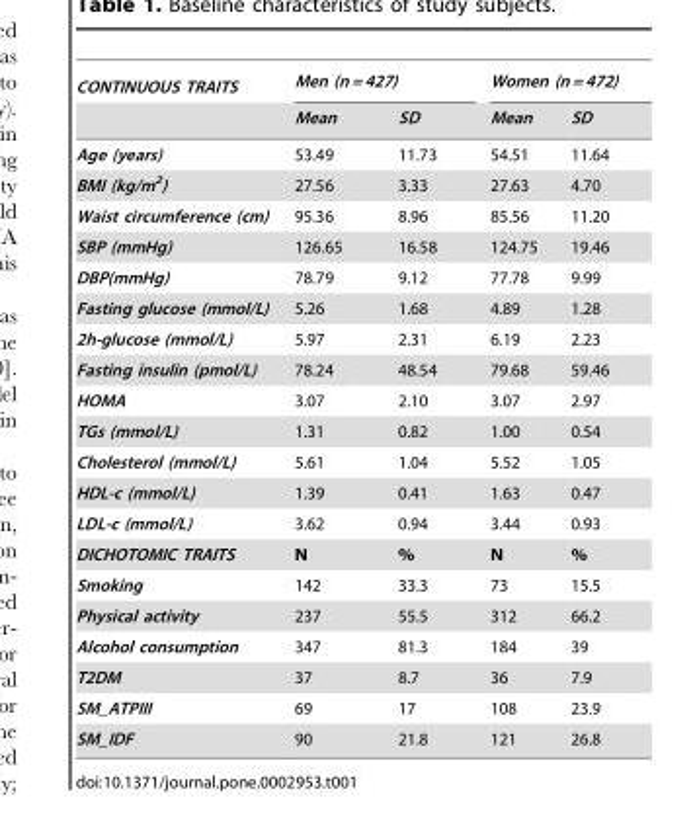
<table><thead><tr><td rowspan="2">CONTINUOUS TRAITS</td><td colspan="2">Men (n = 427)</td><td colspan="2">Women (n = 472)</td></tr><tr><td>Mean</td><td>SD</td><td>Mean</td><td>SD</td></tr></thead><tbody><tr><td>Age (years)</td><td>53.49</td><td>11.73</td><td>54.51</td><td>11.64</td></tr><tr><td>BMI (kg/m<sup>2</sup>)</td><td>27.56</td><td>3.33</td><td>27.63</td><td>4.70</td></tr><tr><td>Waist circumference (cm)</td><td>95.36</td><td>8.96</td><td>85.56</td><td>11.20</td></tr><tr><td>SBP (mmHg)</td><td>126.65</td><td>16.58</td><td>124.75</td><td>19.46</td></tr><tr><td>DBP(mmHg)</td><td>78.79</td><td>9.12</td><td>77.78</td><td>9.99</td></tr><tr><td>Fasting glucose (mmol/L)</td><td>5.26</td><td>1.68</td><td>4.89</td><td>1.28</td></tr><tr><td>2h-glucose (mmol/L)</td><td>5.97</td><td>2.31</td><td>6.19</td><td>2.23</td></tr><tr><td>Fasting insulin (pmol/L)</td><td>78.24</td><td>48.54</td><td>79.68</td><td>59.46</td></tr><tr><td>HOMA</td><td>3.07</td><td>2.10</td><td>3.07</td><td>2.97</td></tr><tr><td>TGs (mmol/L)</td><td>1.31</td><td>0.82</td><td>1.00</td><td>0.54</td></tr><tr><td>Cholesterol (mmol/L)</td><td>5.61</td><td>1.04</td><td>5.52</td><td>1.05</td></tr><tr><td>HDL-c (mmol/L)</td><td>1.39</td><td>0.41</td><td>1.63</td><td>0.47</td></tr><tr><td>LDL-c (mmol/L)</td><td>3.62</td><td>0.94</td><td>3.44</td><td>0.93</td></tr><tr><td>DICHOTOMIC TRAITS</td><td>N</td><td>%</td><td>N</td><td>%</td></tr><tr><td>Smoking</td><td>142</td><td>33.3</td><td>73</td><td>15.5</td></tr><tr><td>Physical activity</td><td>237</td><td>55.5</td><td>312</td><td>66.2</td></tr><tr><td>Alcohol consumption</td><td>347</td><td>81.3</td><td>184</td><td>39</td></tr><tr><td>T2DM</td><td>37</td><td>8.7</td><td>36</td><td>7.9</td></tr><tr><td>SM_ATPIII</td><td>69</td><td>17</td><td>108</td><td>23.9</td></tr><tr><td>SM_IDF</td><td>90</td><td>21.8</td><td>121</td><td>26.8</td></tr></tbody></table>